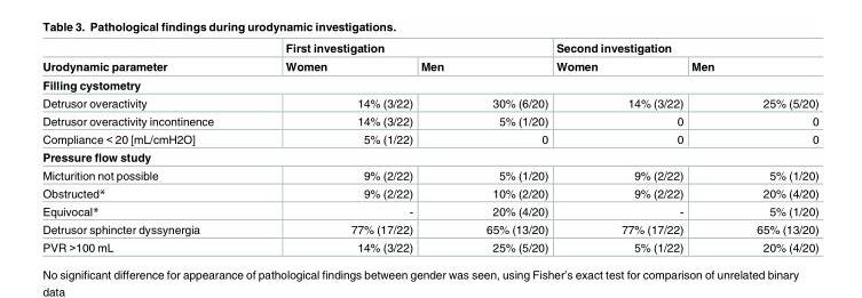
<table><thead><tr><td rowspan="2">Urodynamic parameter</td><td colspan="2">First investigation</td><td colspan="2">Second investigation</td></tr><tr><td>Women</td><td>Men</td><td>Women</td><td>Men</td></tr></thead><tbody><tr><td colspan="5">Filling cystometry</td></tr><tr><td>Detrusor overactivity</td><td>14% (3/22)</td><td>30% (6/20)</td><td>14% (3/22)</td><td>25% (5/20)</td></tr><tr><td>Detrusor overactivity incontinence</td><td>14% (3/22)</td><td>5% (1/20)</td><td>0</td><td>0</td></tr><tr><td>Compliance &lt; 20 [mL/cmH2O]</td><td>5% (1/22)</td><td>0</td><td>0</td><td>0</td></tr><tr><td colspan="5">Pressure flow study</td></tr><tr><td>Micturition not possible</td><td>9% (2/22)</td><td>5% (1/20)</td><td>9% (2/22)</td><td>5% (1/20)</td></tr><tr><td>Obstructed*</td><td>9% (2/22)</td><td>10% (2/20)</td><td>9% (2/22)</td><td>20% (4/20)</td></tr><tr><td>Equivocal*</td><td>-</td><td>20% (4/20)</td><td>-</td><td>5% (1/20)</td></tr><tr><td>Detrusor sphincter dyssynergia</td><td>77% (17/22)</td><td>65% (13/20)</td><td>77% (17/22)</td><td>65% (13/20)</td></tr><tr><td>PVR &gt;100 mL</td><td>14% (3/22)</td><td>25% (5/20)</td><td>5% (1/22)</td><td>20% (4/20)</td></tr></tbody></table>